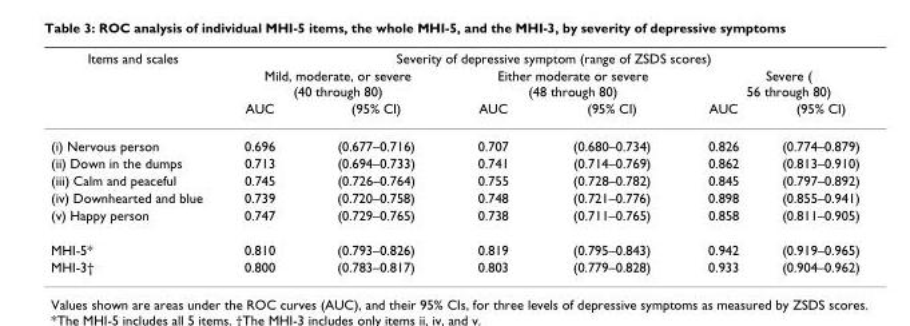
<table><thead><tr><td rowspan="3">Items and scales</td><td colspan="6">Severity of depressive symptom (range of ZSDS scores)</td></tr><tr><td colspan="2">Mild, moderate, or severe (40 through 80)</td><td colspan="2">Either moderate or severe (48 through 80)</td><td colspan="2">Severe ( 56 through 80)</td></tr><tr><td>AUC</td><td>(95% CI)</td><td>AUC</td><td>(95% CI)</td><td>AUC</td><td>(95% CI)</td></tr></thead><tbody><tr><td>(i) Nervous person</td><td>0.696</td><td>(0.677–0.716)</td><td>0.707</td><td>(0.680–0.734)</td><td>0.826</td><td>(0.774–0.879)</td></tr><tr><td>(ii) Down in the dumps</td><td>0.713</td><td>(0.694–0.733)</td><td>0.741</td><td>(0.714–0.769)</td><td>0.862</td><td>(0.813–0.910)</td></tr><tr><td>(iii) Calm and peaceful</td><td>0.745</td><td>(0.726–0.764)</td><td>0.755</td><td>(0.728–0.782)</td><td>0.845</td><td>(0.797–0.892)</td></tr><tr><td>(iv) Downhearted and blue</td><td>0.739</td><td>(0.720–0.758)</td><td>0.748</td><td>(0.721–0.776)</td><td>0.898</td><td>(0.855–0.941)</td></tr><tr><td>(v) Happy person</td><td>0.747</td><td>(0.729–0.765)</td><td>0.738</td><td>(0.711–0.765)</td><td>0.858</td><td>(0.811–0.905)</td></tr><tr><td>MHI-5*</td><td>0.810</td><td>(0.793–0.826)</td><td>0.819</td><td>(0.795–0.843)</td><td>0.942</td><td>(0.919–0.965)</td></tr><tr><td>MHI-3†</td><td>0.800</td><td>(0.783–0.817)</td><td>0.803</td><td>(0.779–0.828)</td><td>0.933</td><td>(0.904–0.962)</td></tr></tbody></table>